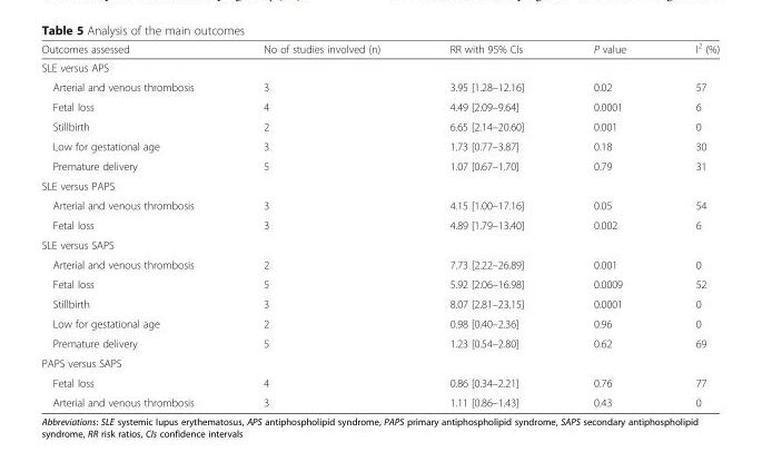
<table><thead><tr><td>Outcomes assessed</td><td>No of studies involved (n)</td><td>RR with 95% CIs</td><td>P value</td><td>I<sup>2</sup> (%)</td></tr></thead><tbody><tr><td colspan="5">SLE versus APS</td></tr><tr><td>Arterial and venous thrombosis</td><td>3</td><td>3.95 [1.28–12.16]</td><td>0.02</td><td>57</td></tr><tr><td>Fetal loss</td><td>4</td><td>4.49 [2.09–9.64]</td><td>0.0001</td><td>6</td></tr><tr><td>Stillbirth</td><td>2</td><td>6.65 [2.14–20.60]</td><td>0.001</td><td>0</td></tr><tr><td>Low for gestational age</td><td>3</td><td>1.73 [0.77–3.87]</td><td>0.18</td><td>30</td></tr><tr><td>Premature delivery</td><td>5</td><td>1.07 [0.67–1.70]</td><td>0.79</td><td>31</td></tr><tr><td colspan="5">SLE versus PAPS</td></tr><tr><td>Arterial and venous thrombosis</td><td>3</td><td>4.15 [1.00–17.16]</td><td>0.05</td><td>54</td></tr><tr><td>Fetal loss</td><td>3</td><td>4.89 [1.79–13.40]</td><td>0.002</td><td>6</td></tr><tr><td colspan="5">SLE versus SAPS</td></tr><tr><td>Arterial and venous thrombosis</td><td>2</td><td>7.73 [2.22–26.89]</td><td>0.001</td><td>0</td></tr><tr><td>Fetal loss</td><td>5</td><td>5.92 [2.06–16.98]</td><td>0.0009</td><td>52</td></tr><tr><td>Stillbirth</td><td>3</td><td>8.07 [2.81–23.15]</td><td>0.0001</td><td>0</td></tr><tr><td>Low for gestational age</td><td>2</td><td>0.98 [0.40–2.36]</td><td>0.96</td><td>0</td></tr><tr><td>Premature delivery</td><td>5</td><td>1.23 [0.54–2.80]</td><td>0.62</td><td>69</td></tr><tr><td colspan="5">PAPS versus SAPS</td></tr><tr><td>Fetal loss</td><td>4</td><td>0.86 [0.34–2.21]</td><td>0.76</td><td>77</td></tr><tr><td>Arterial and venous thrombosis</td><td>3</td><td>1.11 [0.86–1.43]</td><td>0.43</td><td>0</td></tr></tbody></table>